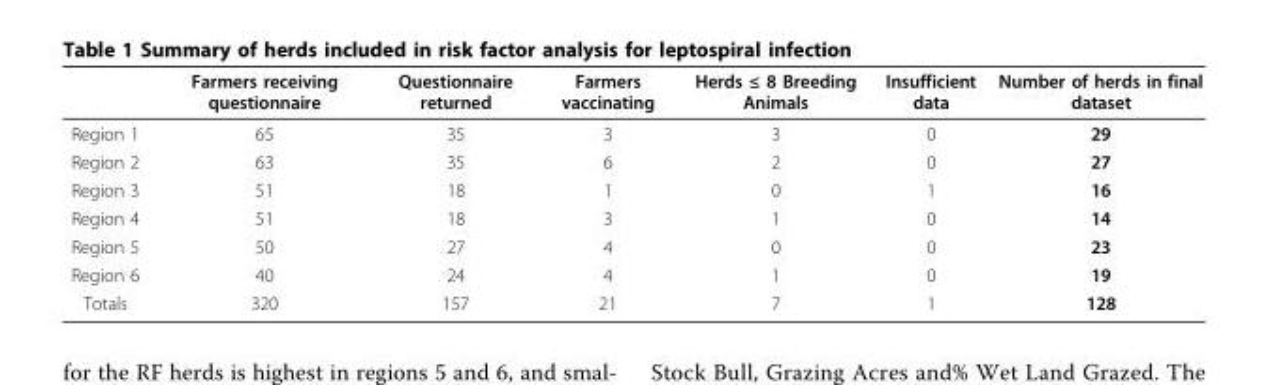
<table><thead><tr><td></td><td>Farmers receiving questionnaire</td><td>Questionnaire returned</td><td>Farmers vaccinating</td><td>Herds ≤ 8 Breeding Animals</td><td>Insufficient data</td><td>Number of herds in final dataset</td></tr></thead><tbody><tr><td>Region 1</td><td>65</td><td>35</td><td>3</td><td>3</td><td>0</td><td>29</td></tr><tr><td>Region 2</td><td>63</td><td>35</td><td>6</td><td>2</td><td>0</td><td>27</td></tr><tr><td>Region 3</td><td>51</td><td>18</td><td>1</td><td>0</td><td>1</td><td>16</td></tr><tr><td>Region 4</td><td>51</td><td>18</td><td>3</td><td>1</td><td>0</td><td>14</td></tr><tr><td>Region 5</td><td>50</td><td>27</td><td>4</td><td>0</td><td>0</td><td>23</td></tr><tr><td>Region 6</td><td>40</td><td>24</td><td>4</td><td>1</td><td>0</td><td>19</td></tr><tr><td>Totals</td><td>320</td><td>157</td><td>21</td><td>7</td><td>1</td><td>128</td></tr></tbody></table>